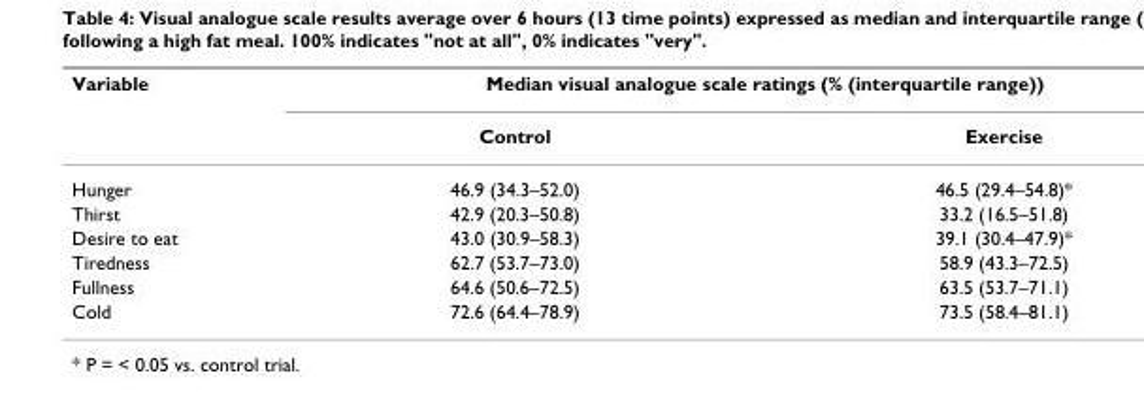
<table><thead><tr><td rowspan="2">Variable</td><td colspan="2">Median visual analogue scale ratings (% (interquartile range))</td></tr><tr><td>Control</td><td>Exercise</td></tr></thead><tbody><tr><td>Hunger</td><td>46.9 (34.3–52.0)</td><td>46.5 (29.4–54.8)*</td></tr><tr><td>Thirst</td><td>42.9 (20.3–50.8)</td><td>33.2 (16.5–51.8)</td></tr><tr><td>Desire to eat</td><td>43.0 (30.9–58.3)</td><td>39.1 (30.4–47.9)*</td></tr><tr><td>Tiredness</td><td>62.7 (53.7–73.0)</td><td>58.9 (43.3–72.5)</td></tr><tr><td>Fullness</td><td>64.6 (50.6–72.5)</td><td>63.5 (53.7–71.1)</td></tr><tr><td>Cold</td><td>72.6 (64.4–78.9)</td><td>73.5 (58.4–81.1)</td></tr></tbody></table>